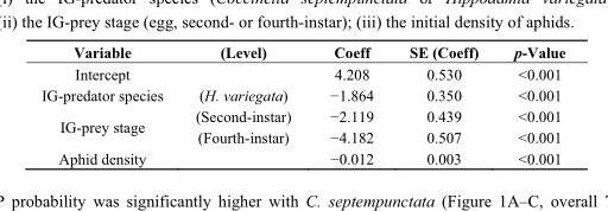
<table><thead><tr><td>Variable</td><td>(Level)</td><td>Coeff</td><td>SE (Coeff)</td><td>p-Value</td></tr></thead><tbody><tr><td>Intercept</td><td></td><td>4.208</td><td>0.530</td><td>&lt;0.001</td></tr><tr><td>IG-predator species</td><td>(H. variegata)</td><td>−1.864</td><td>0.350</td><td>&lt;0.001</td></tr><tr><td rowspan="2">IG-prey stage</td><td>(Second-instar)</td><td>−2.119</td><td>0.439</td><td>&lt;0.001</td></tr><tr><td>(Fourth-instar)</td><td>−4.182</td><td>0.507</td><td>&lt;0.001</td></tr><tr><td>Aphid density</td><td></td><td>−0.012</td><td>0.003</td><td>&lt;0.001</td></tr></tbody></table>